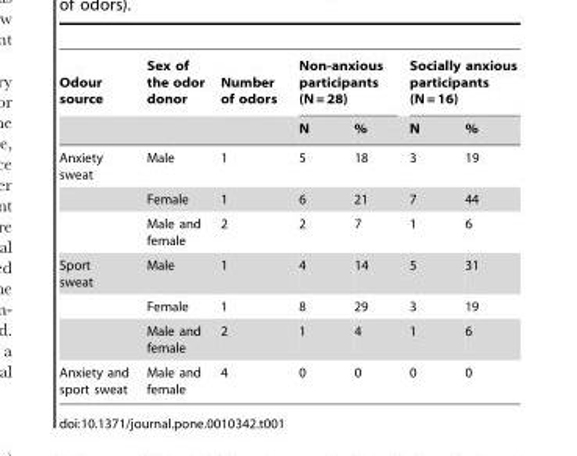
<table><thead><tr><td rowspan="2">Odour source</td><td rowspan="2">Sex of the odor donor</td><td rowspan="2">Number of odors</td><td colspan="2">Non-anxious participants (N = 28)</td><td colspan="2">Socially anxious participants (N = 16)</td></tr><tr><td>N</td><td>%</td><td>N</td><td>%</td></tr></thead><tbody><tr><td rowspan="3">Anxiety sweat</td><td>Male</td><td>1</td><td>5</td><td>18</td><td>3</td><td>19</td></tr><tr><td>Female</td><td>1</td><td>6</td><td>21</td><td>7</td><td>44</td></tr><tr><td>Male and female</td><td>2</td><td>2</td><td>7</td><td>1</td><td>6</td></tr><tr><td rowspan="3">Sport sweat</td><td>Male</td><td>1</td><td>4</td><td>14</td><td>5</td><td>31</td></tr><tr><td>Female</td><td>1</td><td>8</td><td>29</td><td>3</td><td>19</td></tr><tr><td>Male and female</td><td>2</td><td>1</td><td>4</td><td>1</td><td>6</td></tr><tr><td>Anxiety and sport sweat</td><td>Male and female</td><td>4</td><td>0</td><td>0</td><td>0</td><td>0</td></tr></tbody></table>